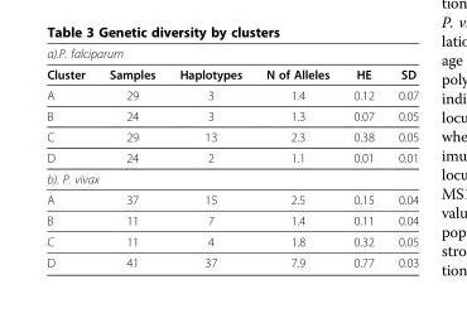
<table><thead><tr><td colspan="6">a).P. falciparum</td></tr><tr><td>Cluster</td><td>Samples</td><td>Haplotypes</td><td>N of Alleles</td><td>HE</td><td>SD</td></tr></thead><tbody><tr><td>A</td><td>29</td><td>3</td><td>1.4</td><td>0.12</td><td>0.07</td></tr><tr><td>B</td><td>24</td><td>3</td><td>1.3</td><td>0.07</td><td>0.05</td></tr><tr><td>C</td><td>29</td><td>13</td><td>2.3</td><td>0.38</td><td>0.05</td></tr><tr><td>D</td><td>24</td><td>2</td><td>1.1</td><td>0.01</td><td>0.01</td></tr><tr><td colspan="6">b). P. vivax</td></tr><tr><td>A</td><td>37</td><td>15</td><td>2.5</td><td>0.15</td><td>0.04</td></tr><tr><td>B</td><td>11</td><td>7</td><td>1.4</td><td>0.11</td><td>0.04</td></tr><tr><td>C</td><td>11</td><td>4</td><td>1.8</td><td>0.32</td><td>0.05</td></tr><tr><td>D</td><td>41</td><td>37</td><td>7.9</td><td>0.77</td><td>0.03</td></tr></tbody></table>